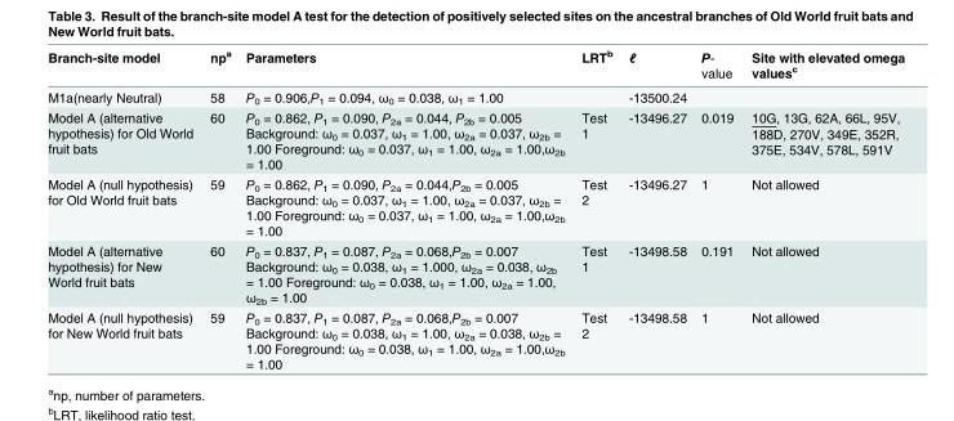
<table><thead><tr><td>Branch-site model</td><td>np<sup>a</sup></td><td>Parameters</td><td>LRT<sup>b</sup></td><td>ℓ</td><td>P- value</td><td>Site with elevated omega values<sup>c</sup></td></tr></thead><tbody><tr><td>M1a(nearly Neutral)</td><td>58</td><td>P<sub>0</sub> = 0.906,P<sub>1</sub> = 0.094, ω<sub>0</sub> = 0.038, ω<sub>1</sub> = 1.00</td><td></td><td>-13500.24</td><td></td><td></td></tr><tr><td>Model A (alternative hypothesis) for Old World fruit bats</td><td>60</td><td>P<sub>0</sub> = 0.862, P<sub>1</sub> = 0.090, P<sub>2a</sub> = 0.044, P<sub>2b</sub> = 0.005 Background: ω<sub>0</sub> = 0.037, ω<sub>1</sub> = 1.00, ω<sub>2a</sub> = 0.037, ω<sub>2b</sub> = 1.00 Foreground: ω<sub>0</sub> = 0.037, ω<sub>1</sub> = 1.00, ω<sub>2a</sub> = 1.00,ω<sub>2b</sub> = 1.00</td><td>Test 1</td><td>-13496.27</td><td>0.019</td><td>10G, 13G, 62A, 66L, 95V, 188D, 270V, 349E, 352R, 375E, 534V, 578L, 591V</td></tr><tr><td>Model A (null hypothesis) for Old World fruit bats</td><td>59</td><td>P<sub>0</sub> = 0.862, P<sub>1</sub> = 0.090, P<sub>2a</sub> = 0.044,P<sub>2b</sub> = 0.005 Background: ω<sub>0</sub> = 0.037, ω<sub>1</sub> = 1.00, ω<sub>2a</sub> = 0.037, ω<sub>2b</sub> = 1.00 Foreground: ω<sub>0</sub> = 0.037, ω<sub>1</sub> = 1.00, ω<sub>2a</sub> = 1.00,ω<sub>2b</sub> = 1.00</td><td>Test 2</td><td>-13496.27</td><td>1</td><td>Not allowed</td></tr><tr><td>Model A (alternative hypothesis) for New World fruit bats</td><td>60</td><td>P<sub>0</sub> = 0.837, P<sub>1</sub> = 0.087, P<sub>2a</sub> = 0.068,P<sub>2b</sub> = 0.007 Background: ω<sub>0</sub> = 0.038, ω<sub>1</sub> = 1.000, ω<sub>2a</sub> = 0.038, ω<sub>2b</sub> = 1.00 Foreground: ω<sub>0</sub> = 0.038, ω<sub>1</sub> = 1.00, ω<sub>2a</sub> = 1.00, ω<sub>2b</sub> = 1.00</td><td>Test 1</td><td>-13498.58</td><td>0.191</td><td>Not allowed</td></tr><tr><td>Model A (null hypothesis) for New World fruit bats</td><td>59</td><td>P<sub>0</sub> = 0.837, P<sub>1</sub> = 0.087, P<sub>2a</sub> = 0.068,P<sub>2b</sub> = 0.007 Background: ω<sub>0</sub> = 0.038, ω<sub>1</sub> = 1.00, ω<sub>2a</sub> = 0.038, ω<sub>2b</sub> = 1.00 Foreground: ω<sub>0</sub> = 0.038, ω<sub>1</sub> = 1.00, ω<sub>2a</sub> = 1.00,ω<sub>2b</sub> = 1.00</td><td>Test 2</td><td>-13498.58</td><td>1</td><td>Not allowed</td></tr></tbody></table>